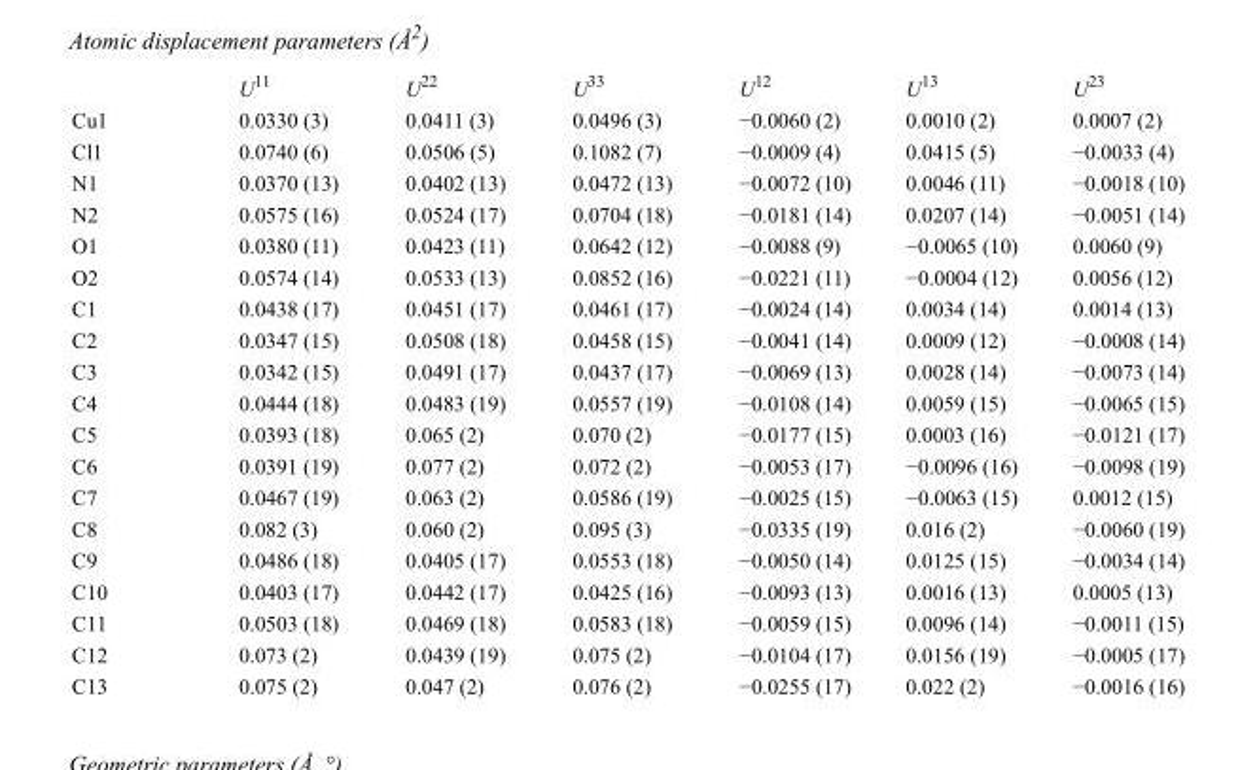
<table><thead><tr><td></td><td>U<sup>11</sup></td><td>U<sup>22</sup></td><td>U<sup>33</sup></td><td>U<sup>12</sup></td><td>U<sup>13</sup></td><td>U<sup>23</sup></td></tr></thead><tbody><tr><td>Cu1</td><td>0.0330 (3)</td><td>0.0411 (3)</td><td>0.0496 (3)</td><td>−0.0060 (2)</td><td>0.0010 (2)</td><td>0.0007 (2)</td></tr><tr><td>Cl1</td><td>0.0740 (6)</td><td>0.0506 (5)</td><td>0.1082 (7)</td><td>−0.0009 (4)</td><td>0.0415 (5)</td><td>−0.0033 (4)</td></tr><tr><td>N1</td><td>0.0370 (13)</td><td>0.0402 (13)</td><td>0.0472 (13)</td><td>−0.0072 (10)</td><td>0.0046 (11)</td><td>−0.0018 (10)</td></tr><tr><td>N2</td><td>0.0575 (16)</td><td>0.0524 (17)</td><td>0.0704 (18)</td><td>−0.0181 (14)</td><td>0.0207 (14)</td><td>−0.0051 (14)</td></tr><tr><td>O1</td><td>0.0380 (11)</td><td>0.0423 (11)</td><td>0.0642 (12)</td><td>−0.0088 (9)</td><td>−0.0065 (10)</td><td>0.0060 (9)</td></tr><tr><td>O2</td><td>0.0574 (14)</td><td>0.0533 (13)</td><td>0.0852 (16)</td><td>−0.0221 (11)</td><td>−0.0004 (12)</td><td>0.0056 (12)</td></tr><tr><td>C1</td><td>0.0438 (17)</td><td>0.0451 (17)</td><td>0.0461 (17)</td><td>−0.0024 (14)</td><td>0.0034 (14)</td><td>0.0014 (13)</td></tr><tr><td>C2</td><td>0.0347 (15)</td><td>0.0508 (18)</td><td>0.0458 (15)</td><td>−0.0041 (14)</td><td>0.0009 (12)</td><td>−0.0008 (14)</td></tr><tr><td>C3</td><td>0.0342 (15)</td><td>0.0491 (17)</td><td>0.0437 (17)</td><td>−0.0069 (13)</td><td>0.0028 (14)</td><td>−0.0073 (14)</td></tr><tr><td>C4</td><td>0.0444 (18)</td><td>0.0483 (19)</td><td>0.0557 (19)</td><td>−0.0108 (14)</td><td>0.0059 (15)</td><td>−0.0065 (15)</td></tr><tr><td>C5</td><td>0.0393 (18)</td><td>0.065 (2)</td><td>0.070 (2)</td><td>−0.0177 (15)</td><td>0.0003 (16)</td><td>−0.0121 (17)</td></tr><tr><td>C6</td><td>0.0391 (19)</td><td>0.077 (2)</td><td>0.072 (2)</td><td>−0.0053 (17)</td><td>−0.0096 (16)</td><td>−0.0098 (19)</td></tr><tr><td>C7</td><td>0.0467 (19)</td><td>0.063 (2)</td><td>0.0586 (19)</td><td>−0.0025 (15)</td><td>−0.0063 (15)</td><td>0.0012 (15)</td></tr><tr><td>C8</td><td>0.082 (3)</td><td>0.060 (2)</td><td>0.095 (3)</td><td>−0.0335 (19)</td><td>0.016 (2)</td><td>−0.0060 (19)</td></tr><tr><td>C9</td><td>0.0486 (18)</td><td>0.0405 (17)</td><td>0.0553 (18)</td><td>−0.0050 (14)</td><td>0.0125 (15)</td><td>−0.0034 (14)</td></tr><tr><td>C10</td><td>0.0403 (17)</td><td>0.0442 (17)</td><td>0.0425 (16)</td><td>−0.0093 (13)</td><td>0.0016 (13)</td><td>0.0005 (13)</td></tr><tr><td>C11</td><td>0.0503 (18)</td><td>0.0469 (18)</td><td>0.0583 (18)</td><td>−0.0059 (15)</td><td>0.0096 (14)</td><td>−0.0011 (15)</td></tr><tr><td>C12</td><td>0.073 (2)</td><td>0.0439 (19)</td><td>0.075 (2)</td><td>−0.0104 (17)</td><td>0.0156 (19)</td><td>−0.0005 (17)</td></tr><tr><td>C13</td><td>0.075 (2)</td><td>0.047 (2)</td><td>0.076 (2)</td><td>−0.0255 (17)</td><td>0.022 (2)</td><td>−0.0016 (16)</td></tr></tbody></table>